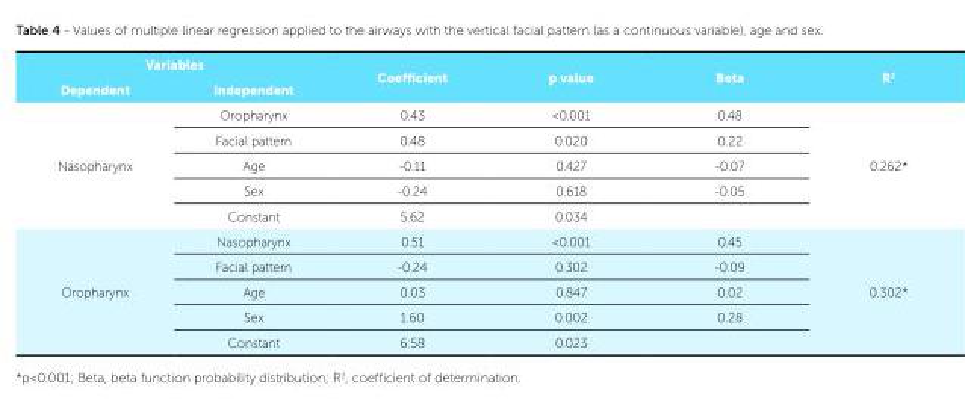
<table><tbody><tr><td colspan="2">Variables</td><td rowspan="2">Coefficient</td><td rowspan="2">p value</td><td rowspan="2">Beta</td><td rowspan="2">R<sup>2</sup></td></tr><tr><td>Dependent</td><td>Independent</td></tr><tr><td rowspan="5">Nasopharynx</td><td>Oropharynx</td><td>0.43</td><td>&lt;0.001</td><td>0.48</td><td rowspan="5">0.262*</td></tr><tr><td>Facial pattern</td><td>0.48</td><td>0.020</td><td>0.22</td></tr><tr><td>Age</td><td>-0.11</td><td>0.427</td><td>-0.07</td></tr><tr><td>Sex</td><td>-0.24</td><td>0.618</td><td>-0.05</td></tr><tr><td>Constant</td><td>5.62</td><td>0.034</td><td></td></tr><tr><td rowspan="5">Oropharynx</td><td>Nasopharynx</td><td>0.51</td><td>&lt;0.001</td><td>0.45</td><td rowspan="5">0.302*</td></tr><tr><td>Facial pattern</td><td>-0.24</td><td>0.302</td><td>-0.09</td></tr><tr><td>Age</td><td>0.03</td><td>0.847</td><td>0.02</td></tr><tr><td>Sex</td><td>1.60</td><td>0.002</td><td>0.28</td></tr><tr><td>Constant</td><td>6.58</td><td>0.023</td><td></td></tr></tbody></table>